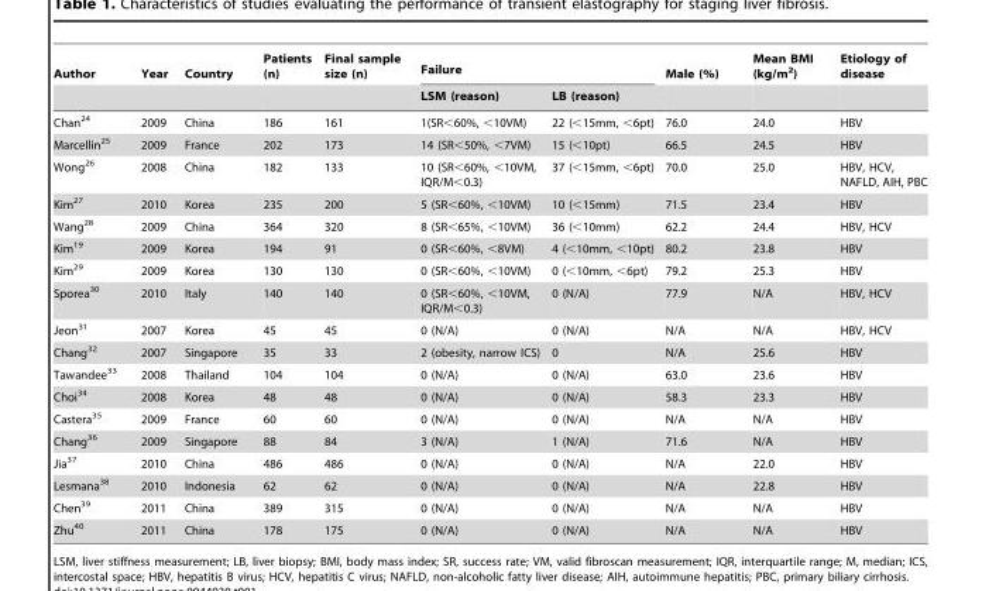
<table><thead><tr><td rowspan="2">Author</td><td rowspan="2">Year</td><td rowspan="2">Country</td><td rowspan="2">Patients (n)</td><td rowspan="2">Final sample size (n)</td><td colspan="2">Failure</td><td rowspan="2">Male (%)</td><td rowspan="2">Mean BMI (kg/m<sup>2</sup>)</td><td rowspan="2">Etiology of disease</td></tr><tr><td>LSM (reason)</td><td>LB (reason)</td></tr></thead><tbody><tr><td>Chan<sup>24</sup></td><td>2009</td><td>China</td><td>186</td><td>161</td><td>1(SR&lt;60%, &lt;10VM)</td><td>22 (&lt;15mm, &lt;6pt)</td><td>76.0</td><td>24.0</td><td>HBV</td></tr><tr><td>Marcellin<sup>25</sup></td><td>2009</td><td>France</td><td>202</td><td>173</td><td>14 (SR&lt;50%, &lt;7VM)</td><td>15 (&lt;10pt)</td><td>66.5</td><td>24.5</td><td>HBV</td></tr><tr><td>Wong<sup>26</sup></td><td>2008</td><td>China</td><td>182</td><td>133</td><td>10 (SR&lt;60%, &lt;10VM, IQR/M&lt;0.3)</td><td>37 (&lt;15mm, &lt;6pt)</td><td>70.0</td><td>25.0</td><td>HBV, HCV, NAFLD, AIH, PBC</td></tr><tr><td>Kim<sup>27</sup></td><td>2010</td><td>Korea</td><td>235</td><td>200</td><td>5 (SR&lt;60%, &lt;10VM)</td><td>10 (&lt;15mm)</td><td>71.5</td><td>23.4</td><td>HBV</td></tr><tr><td>Wang<sup>28</sup></td><td>2009</td><td>China</td><td>364</td><td>320</td><td>8 (SR&lt;65%, &lt;10VM)</td><td>36 (&lt;10mm)</td><td>62.2</td><td>24.4</td><td>HBV, HCV</td></tr><tr><td>Kim<sup>19</sup></td><td>2009</td><td>Korea</td><td>194</td><td>91</td><td>0 (SR&lt;60%, &lt;8VM)</td><td>4 (&lt;10mm, &lt;10pt)</td><td>80.2</td><td>23.8</td><td>HBV</td></tr><tr><td>Kim<sup>29</sup></td><td>2009</td><td>Korea</td><td>130</td><td>130</td><td>0 (SR&lt;60%, &lt;10VM)</td><td>0 (&lt;10mm, &lt;6pt)</td><td>79.2</td><td>25.3</td><td>HBV</td></tr><tr><td>Sporea<sup>30</sup></td><td>2010</td><td>Italy</td><td>140</td><td>140</td><td>0 (SR&lt;60%, &lt;10VM, IQR/M&lt;0.3)</td><td>0 (N/A)</td><td>77.9</td><td>N/A</td><td>HBV, HCV</td></tr><tr><td>Jeon<sup>31</sup></td><td>2007</td><td>Korea</td><td>45</td><td>45</td><td>0 (N/A)</td><td>0 (N/A)</td><td>N/A</td><td>N/A</td><td>HBV, HCV</td></tr><tr><td>Chang<sup>32</sup></td><td>2007</td><td>Singapore</td><td>35</td><td>33</td><td>2 (obesity, narrow ICS)</td><td>0</td><td>N/A</td><td>25.6</td><td>HBV</td></tr><tr><td>Tawandee<sup>33</sup></td><td>2008</td><td>Thailand</td><td>104</td><td>104</td><td>0 (N/A)</td><td>0 (N/A)</td><td>63.0</td><td>23.6</td><td>HBV</td></tr><tr><td>Choi<sup>34</sup></td><td>2008</td><td>Korea</td><td>48</td><td>48</td><td>0 (N/A)</td><td>0 (N/A)</td><td>58.3</td><td>23.3</td><td>HBV</td></tr><tr><td>Castera<sup>35</sup></td><td>2009</td><td>France</td><td>60</td><td>60</td><td>0 (N/A)</td><td>0 (N/A)</td><td>N/A</td><td>N/A</td><td>HBV</td></tr><tr><td>Chang<sup>36</sup></td><td>2009</td><td>Singapore</td><td>88</td><td>84</td><td>3 (N/A)</td><td>1 (N/A)</td><td>71.6</td><td>N/A</td><td>HBV</td></tr><tr><td>Jia<sup>37</sup></td><td>2010</td><td>China</td><td>486</td><td>486</td><td>0 (N/A)</td><td>0 (N/A)</td><td>N/A</td><td>22.0</td><td>HBV</td></tr><tr><td>Lesmana<sup>38</sup></td><td>2010</td><td>Indonesia</td><td>62</td><td>62</td><td>0 (N/A)</td><td>0 (N/A)</td><td>N/A</td><td>22.8</td><td>HBV</td></tr><tr><td>Chen<sup>39</sup></td><td>2011</td><td>China</td><td>389</td><td>315</td><td>0 (N/A)</td><td>0 (N/A)</td><td>N/A</td><td>N/A</td><td>HBV</td></tr><tr><td>Zhu<sup>40</sup></td><td>2011</td><td>China</td><td>178</td><td>175</td><td>0 (N/A)</td><td>0 (N/A)</td><td>N/A</td><td>N/A</td><td>HBV</td></tr></tbody></table>